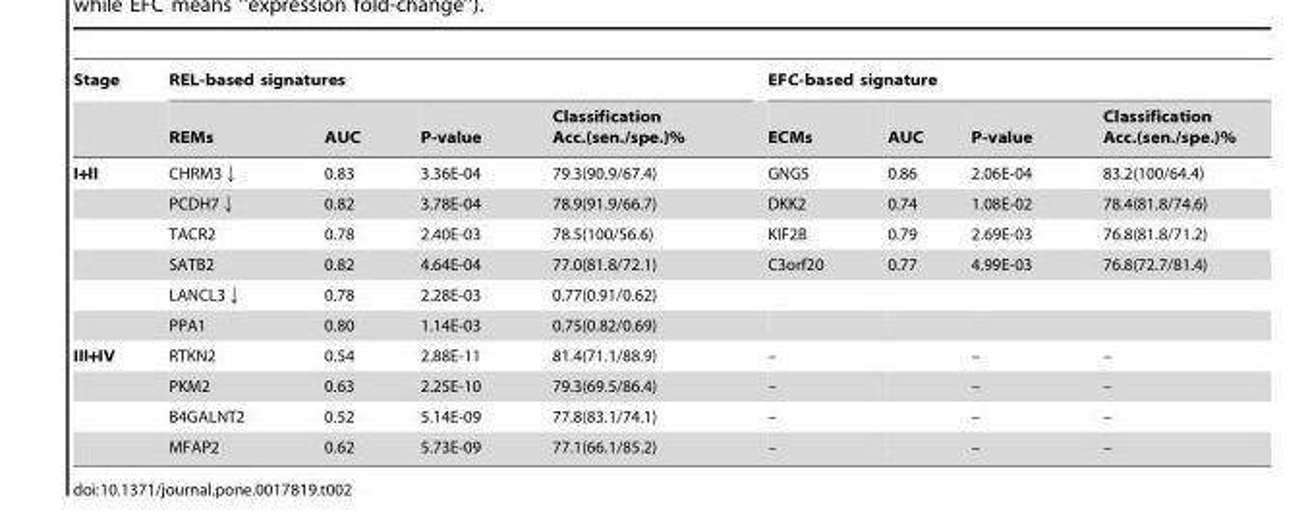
<table><thead><tr><td rowspan="2">Stage</td><td colspan="4">REL-based signatures</td><td colspan="4">EFC-based signature</td></tr><tr><td>REMs</td><td>AUC</td><td>P-value</td><td>Classification Acc.(sen./spe.)%</td><td>ECMs</td><td>AUC</td><td>P-value</td><td>Classification Acc.(sen./spe.)%</td></tr></thead><tbody><tr><td rowspan="6">I+II</td><td>CHRM3↓</td><td>0.83</td><td>3.36E-04</td><td>79.3(90.9/67.4)</td><td>GNG5</td><td>0.86</td><td>2.06E-04</td><td>83.2(100/64.4)</td></tr><tr><td>PCDH7↓</td><td>0.82</td><td>3.78E-04</td><td>78.9(91.9/66.7)</td><td>DKK2</td><td>0.74</td><td>1.08E-02</td><td>78.4(81.8/74.6)</td></tr><tr><td>TACR2</td><td>0.78</td><td>2.40E-03</td><td>78.5(100/56.6)</td><td>KIF2B</td><td>0.79</td><td>2.69E-03</td><td>76.8(81.8/71.2)</td></tr><tr><td>SATB2</td><td>0.82</td><td>4.64E-04</td><td>77.0(81.8/72.1)</td><td>C3orf20</td><td>0.77</td><td>4.99E-03</td><td>76.8(72.7/81.4)</td></tr><tr><td>LANCL3↓</td><td>0.78</td><td>2.28E-03</td><td>0.77(0.91/0.62)</td><td></td><td></td><td></td><td></td></tr><tr><td>PPA1</td><td>0.80</td><td>1.14E-03</td><td>0.75(0.82/0.69)</td><td></td><td></td><td></td><td></td></tr><tr><td rowspan="4">III+IV</td><td>RTKN2</td><td>0.54</td><td>2.88E-11</td><td>81.4(71.1/88.9)</td><td>–</td><td></td><td>–</td><td>–</td></tr><tr><td>PKM2</td><td>0.63</td><td>2.25E-10</td><td>79.3(69.5/86.4)</td><td>–</td><td></td><td>–</td><td>–</td></tr><tr><td>B4GALNT2</td><td>0.52</td><td>5.14E-09</td><td>77.8(83.1/74.1)</td><td>–</td><td></td><td>–</td><td>–</td></tr><tr><td>MFAP2</td><td>0.62</td><td>5.73E-09</td><td>77.1(66.1/85.2)</td><td>–</td><td></td><td>–</td><td>–</td></tr></tbody></table>